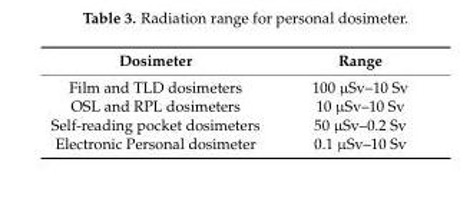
<table><thead><tr><td>Dosimeter</td><td>Range</td></tr></thead><tbody><tr><td>Film and TLD dosimeters</td><td>100 µSv–10 Sv</td></tr><tr><td>OSL and RPL dosimeters</td><td>10 µSv–10 Sv</td></tr><tr><td>Self-reading pocket dosimeters</td><td>50 µSv–0.2 Sv</td></tr><tr><td>Electronic Personal dosimeter</td><td>0.1 µSv–10 Sv</td></tr></tbody></table>